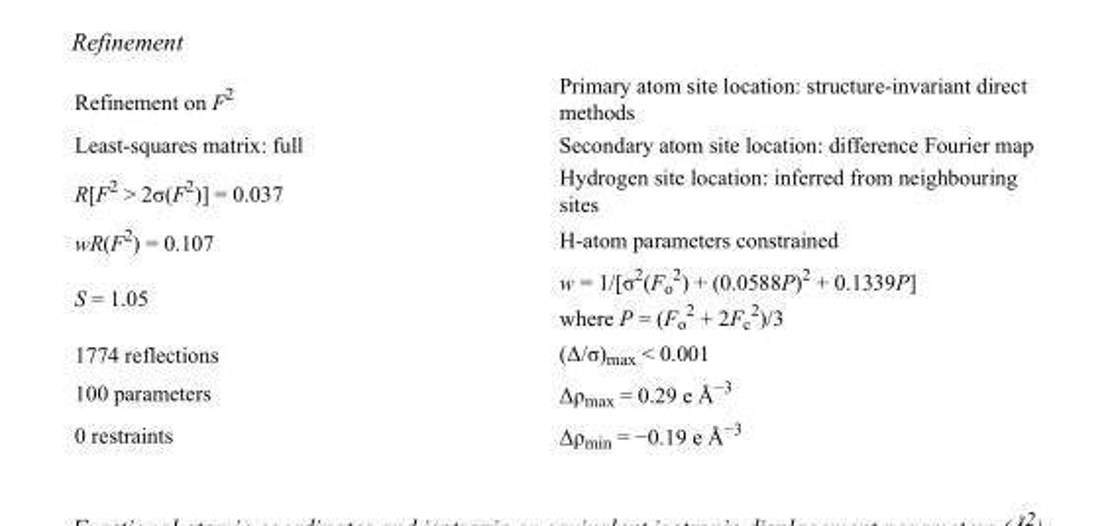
<table><tbody><tr><td>Refinement on F<sup>2</sup></td><td>Primary atom site location: structure-invariant direct methods</td></tr><tr><td>Least-squares matrix: full</td><td>Secondary atom site location: difference Fourier map</td></tr><tr><td>R[F<sup>2</sup> &gt; 2σ(F<sup>2</sup>)] = 0.037</td><td>Hydrogen site location: inferred from neighbouring sites</td></tr><tr><td>wR(F<sup>2</sup>) = 0.107</td><td>H-atom parameters constrained</td></tr><tr><td>S = 1.05</td><td>w = 1/[σ<sup>2</sup>(F<sub>o</sub> <sup>2</sup>) + (0.0588P)<sup>2</sup> + 0.1339P] where P = (F<sub>o</sub> <sup>2</sup> + 2F<sub>c</sub> <sup>2</sup>)/3</td></tr><tr><td>1774 reflections</td><td>(Δ/σ)<sub>max</sub> &lt; 0.001</td></tr><tr><td>100 parameters</td><td>Δρ<sub>max</sub> = 0.29 e Å<sup>−3</sup></td></tr><tr><td>0 restraints</td><td>Δρ<sub>min</sub> = −0.19 e Å<sup>−3</sup></td></tr></tbody></table>